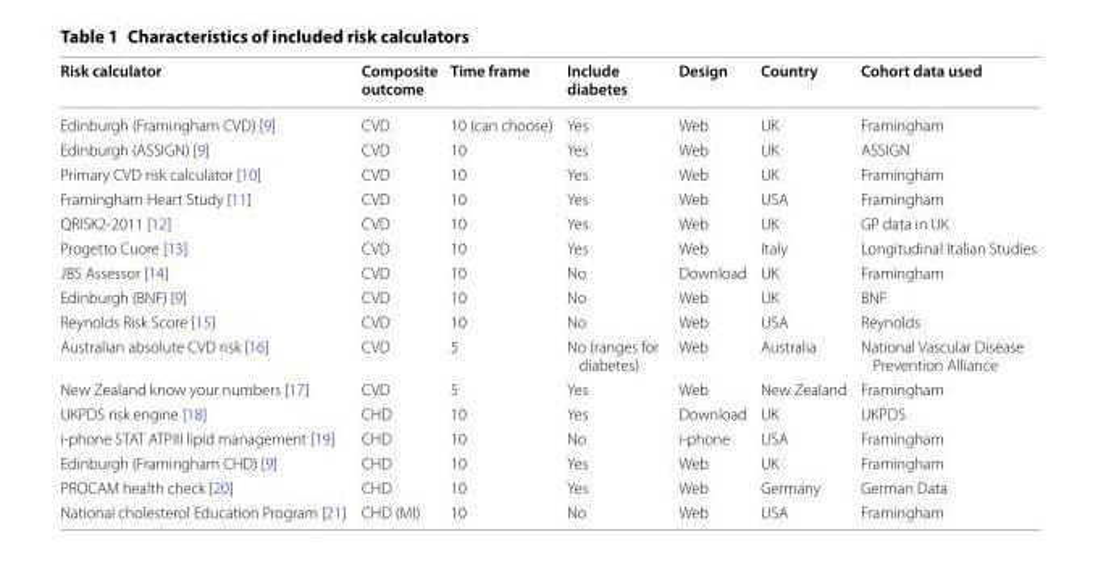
<table><thead><tr><td>Risk calculator</td><td>Composite outcome</td><td>Time frame</td><td>Include diabetes</td><td>Design</td><td>Country</td><td>Cohort data used</td></tr></thead><tbody><tr><td>Edinburgh (Framingham CVD) [9]</td><td>CVD</td><td>10 (can choose)</td><td>Yes</td><td>Web</td><td>UK</td><td>Framingham</td></tr><tr><td>Edinburgh (ASSIGN) [9]</td><td>CVD</td><td>10</td><td>Yes</td><td>Web</td><td>UK</td><td>ASSIGN</td></tr><tr><td>Primary CVD risk calculator [10]</td><td>CVD</td><td>10</td><td>Yes</td><td>Web</td><td>UK</td><td>Framingham</td></tr><tr><td>Framingham Heart Study [11]</td><td>CVD</td><td>10</td><td>Yes</td><td>Web</td><td>USA</td><td>Framingham</td></tr><tr><td>QRISK2-2011 [12]</td><td>CVD</td><td>10</td><td>Yes</td><td>Web</td><td>UK</td><td>GP data in UK</td></tr><tr><td>Progetto Cuore [13]</td><td>CVD</td><td>10</td><td>Yes</td><td>Web</td><td>Italy</td><td>Longitudinal Italian Studies</td></tr><tr><td>JBS Assessor [14]</td><td>CVD</td><td>10</td><td>No</td><td>Download</td><td>UK</td><td>Framingham</td></tr><tr><td>Edinburgh (BNF) [9]</td><td>CVD</td><td>10</td><td>No</td><td>Web</td><td>UK</td><td>BNF</td></tr><tr><td>Reynolds Risk Score [15]</td><td>CVD</td><td>10</td><td>No</td><td>Web</td><td>USA</td><td>Reynolds</td></tr><tr><td>Australian absolute CVD risk [16]</td><td>CVD</td><td>5</td><td>No (ranges for diabetes)</td><td>Web</td><td>Australia</td><td>National Vascular Disease Prevention Alliance</td></tr><tr><td>New Zealand know your numbers [17]</td><td>CVD</td><td>5</td><td>Yes</td><td>Web</td><td>New Zealand</td><td>Framingham</td></tr><tr><td>UKPDS risk engine [18]</td><td>CHD</td><td>10</td><td>Yes</td><td>Download</td><td>UK</td><td>UKPDS</td></tr><tr><td>i-phone STAT ATPIII lipid management [19]</td><td>CHD</td><td>10</td><td>No</td><td>i-phone</td><td>USA</td><td>Framingham</td></tr><tr><td>Edinburgh (Framingham CHD) [9]</td><td>CHD</td><td>10</td><td>Yes</td><td>Web</td><td>UK</td><td>Framingham</td></tr><tr><td>PROCAM health check [20]</td><td>CHD</td><td>10</td><td>Yes</td><td>Web</td><td>Germany</td><td>German Data</td></tr><tr><td>National cholesterol Education Program [21]</td><td>CHD (MI)</td><td>10</td><td>No</td><td>Web</td><td>USA</td><td>Framingham</td></tr></tbody></table>